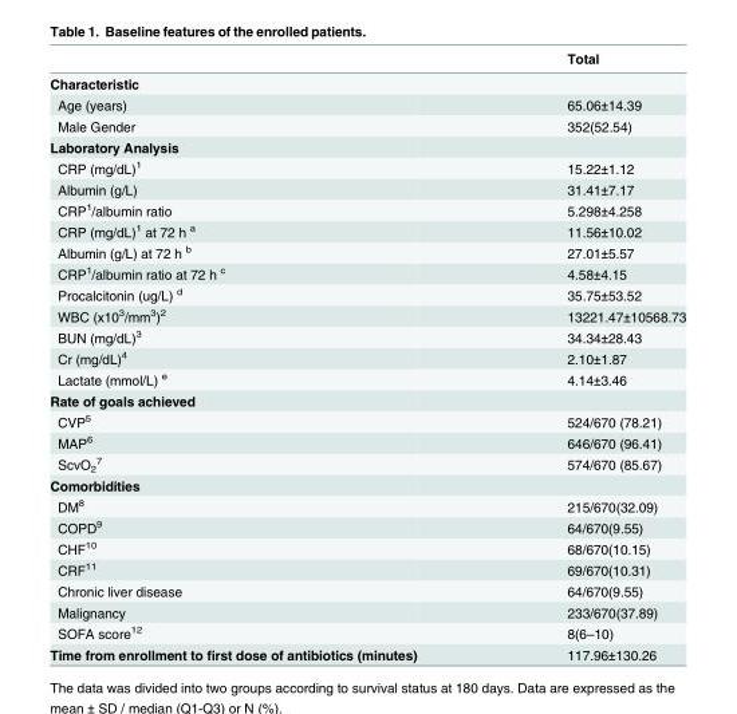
<table><thead><tr><td></td><td>Total</td></tr></thead><tbody><tr><td colspan="2">Characteristic</td></tr><tr><td>Age (years)</td><td>65.06±14.39</td></tr><tr><td>Male Gender</td><td>352(52.54)</td></tr><tr><td colspan="2">Laboratory Analysis</td></tr><tr><td>CRP (mg/dL)<sup>1</sup></td><td>15.22±1.12</td></tr><tr><td>Albumin (g/L)</td><td>31.41±7.17</td></tr><tr><td>CRP<sup>1</sup>/albumin ratio</td><td>5.298±4.258</td></tr><tr><td>CRP (mg/dL)<sup>1</sup> at 72 h <sup>a</sup></td><td>11.56±10.02</td></tr><tr><td>Albumin (g/L) at 72 h <sup>b</sup></td><td>27.01±5.57</td></tr><tr><td>CRP<sup>1</sup>/albumin ratio at 72 h <sup>c</sup></td><td>4.58±4.15</td></tr><tr><td>Procalcitonin (ug/L) <sup>d</sup></td><td>35.75±53.52</td></tr><tr><td>WBC (x10<sup>3</sup>/mm<sup>3</sup>)<sup>2</sup></td><td>13221.47±10568.73</td></tr><tr><td>BUN (mg/dL)<sup>3</sup></td><td>34.34±28.43</td></tr><tr><td>Cr (mg/dL)<sup>4</sup></td><td>2.10±1.87</td></tr><tr><td>Lactate (mmol/L) <sup>e</sup></td><td>4.14±3.46</td></tr><tr><td colspan="2">Rate of goals achieved</td></tr><tr><td>CVP<sup>5</sup></td><td>524/670 (78.21)</td></tr><tr><td>MAP<sup>6</sup></td><td>646/670 (96.41)</td></tr><tr><td>ScvO<sub>2</sub> <sup>7</sup></td><td>574/670 (85.67)</td></tr><tr><td colspan="2">Comorbidities</td></tr><tr><td>DM<sup>8</sup></td><td>215/670(32.09)</td></tr><tr><td>COPD<sup>9</sup></td><td>64/670(9.55)</td></tr><tr><td>CHF<sup>10</sup></td><td>68/670(10.15)</td></tr><tr><td>CRF<sup>11</sup></td><td>69/670(10.31)</td></tr><tr><td>Chronic liver disease</td><td>64/670(9.55)</td></tr><tr><td>Malignancy</td><td>233/670(37.89)</td></tr><tr><td>SOFA score<sup>12</sup></td><td>8(6–10)</td></tr><tr><td>Time from enrollment to first dose of antibiotics (minutes)</td><td>117.96±130.26</td></tr></tbody></table>